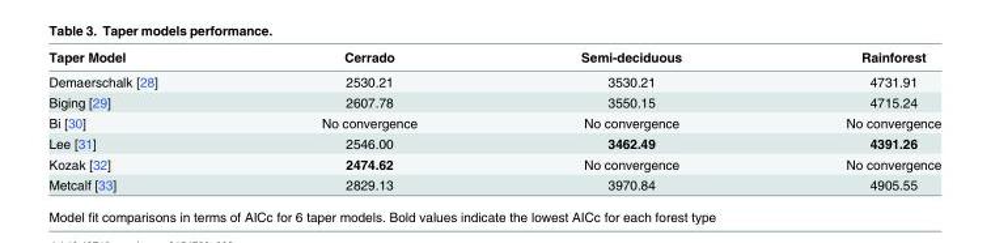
<table><thead><tr><td>Taper Model</td><td>Cerrado</td><td>Semi-deciduous</td><td>Rainforest</td></tr></thead><tbody><tr><td>Demaerschalk [28]</td><td>2530.21</td><td>3530.21</td><td>4731.91</td></tr><tr><td>Biging [29]</td><td>2607.78</td><td>3550.15</td><td>4715.24</td></tr><tr><td>Bi [30]</td><td>No convergence</td><td>No convergence</td><td>No convergence</td></tr><tr><td>Lee [31]</td><td>2546.00</td><td>3462.49</td><td>4391.26</td></tr><tr><td>Kozak [32]</td><td>2474.62</td><td>No convergence</td><td>No convergence</td></tr><tr><td>Metcalf [33]</td><td>2829.13</td><td>3970.84</td><td>4905.55</td></tr></tbody></table>